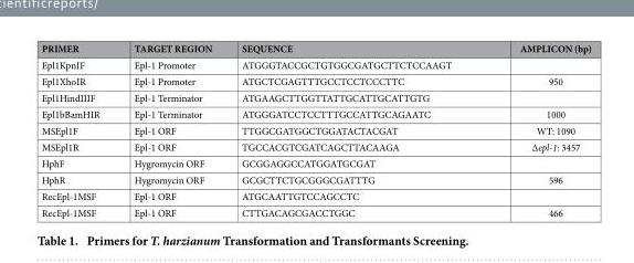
<table><thead><tr><td>PRIMER</td><td>TARGET REGION</td><td>SEQUENCE</td><td>AMPLICON (bp)</td></tr></thead><tbody><tr><td>Epl1KpnIF</td><td>Epl-1 Promoter</td><td>ATGGGTACCGCTGTGGCGATGCTTCTCCAAGT</td><td></td></tr><tr><td>Epl1XhoIR</td><td>Epl-1 Promoter</td><td>ATGCTCGAGTTTGCCTCCTCCCTTC</td><td>950</td></tr><tr><td>Epl1HindIIIF</td><td>Epl-1 Terminator</td><td>ATGAAGCTTGGTTATTGCATTGCATTGTG</td><td></td></tr><tr><td>Epl1bBamHIR</td><td>Epl-1 Terminator</td><td>ATGGGATCCTCCTTTGCCATTGCAGAATC</td><td>1000</td></tr><tr><td>MSEpl1F</td><td>Epl-1 ORF</td><td>TTGGCGATGGCTGGATACTACGAT</td><td>WT: 1090</td></tr><tr><td>MSEpl1R</td><td>Epl-1 ORF</td><td>TGCCACGTCGATCAGCTTACAAGA</td><td>∆epl-1: 3457</td></tr><tr><td>HphF</td><td>Hygromycin ORF</td><td>GCGGAGGCCATGGATGCGAT</td><td></td></tr><tr><td>HphR</td><td>Hygromycin ORF</td><td>GCGCTTCTGCGGGCGATTTG</td><td>596</td></tr><tr><td>RecEpl-1MSF</td><td>Epl-1 ORF</td><td>ATGCAATTGTCCAGCCTC</td><td></td></tr><tr><td>RecEpl-1MSF</td><td>Epl-1 ORF</td><td>CTTGACAGCGACCTGGC</td><td>466</td></tr></tbody></table>